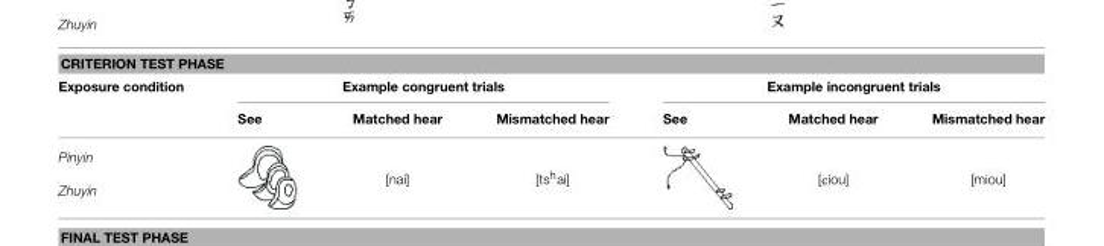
<table><thead><tr><td colspan="7">CRITERION TEST PHASE</td></tr><tr><td rowspan="2">Exposure condition</td><td colspan="3">Example congruent trials</td><td colspan="3">Example incongruent trials</td></tr><tr><td>See</td><td>Matched hear</td><td>Mismatched hear</td><td>See</td><td>Matched hear</td><td>Mismatched hear</td></tr></thead><tbody><tr><td>Pinyin</td><td></td><td>[nai]</td><td>[ts<sup>h</sup>ai]</td><td></td><td>[Ciou]</td><td>[miou]</td></tr></tbody></table>